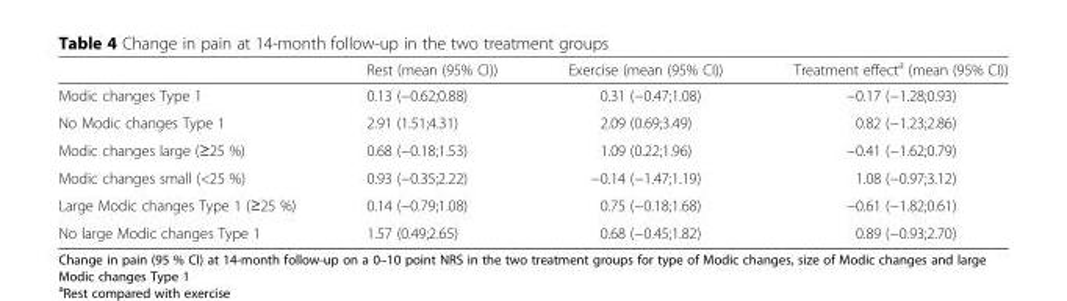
<table><thead><tr><td></td><td>Rest (mean (95% CI))</td><td>Exercise (mean (95% CI))</td><td>Treatment effect<sup>a</sup> (mean (95% CI))</td></tr></thead><tbody><tr><td>Modic changes Type 1</td><td>0.13 (−0.62;0.88)</td><td>0.31 (−0.47;1.08)</td><td>−0.17 (−1.28;0.93)</td></tr><tr><td>No Modic changes Type 1</td><td>2.91 (1.51;4.31)</td><td>2.09 (0.69;3.49)</td><td>0.82 (−1.23;2.86)</td></tr><tr><td>Modic changes large (≥25 %)</td><td>0.68 (−0.18;1.53)</td><td>1.09 (0.22;1.96)</td><td>−0.41 (−1.62;0.79)</td></tr><tr><td>Modic changes small (&lt;25 %)</td><td>0.93 (−0.35;2.22)</td><td>−0.14 (−1.47;1.19)</td><td>1.08 (−0.97;3.12)</td></tr><tr><td>Large Modic changes Type 1 (≥25 %)</td><td>0.14 (−0.79;1.08)</td><td>0.75 (−0.18;1.68)</td><td>−0.61 (−1.82;0.61)</td></tr><tr><td>No large Modic changes Type 1</td><td>1.57 (0.49;2.65)</td><td>0.68 (−0.45;1.82)</td><td>0.89 (−0.93;2.70)</td></tr></tbody></table>